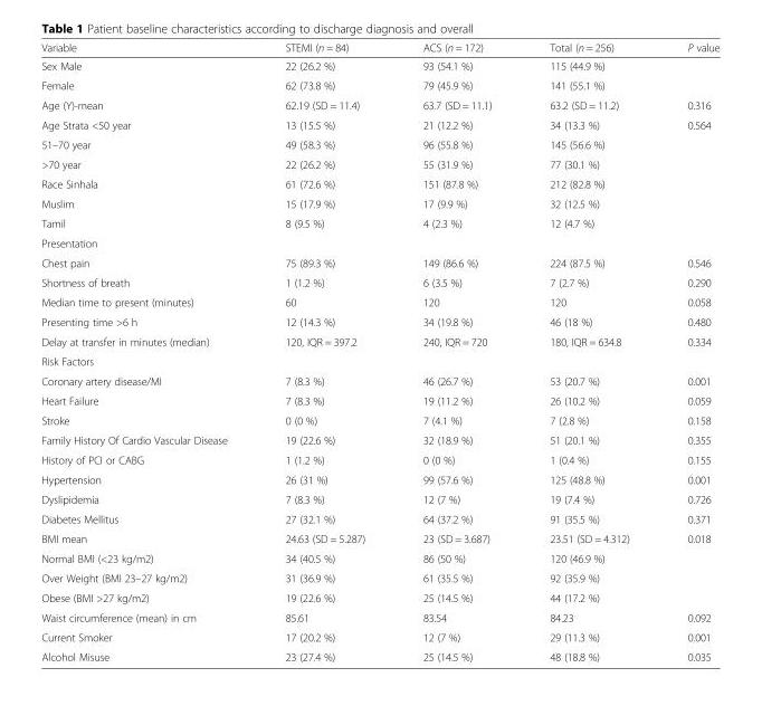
<table><thead><tr><td>Variable</td><td>STEMI (n = 84)</td><td>ACS (n = 172)</td><td>Total (n = 256)</td><td>P value</td></tr></thead><tbody><tr><td>Sex Male</td><td>22 (26.2 %)</td><td>93 (54.1 %)</td><td>115 (44.9 %)</td><td rowspan="2"></td></tr><tr><td>Female</td><td>62 (73.8 %)</td><td>79 (45.9 %)</td><td>141 (55.1 %)</td></tr><tr><td>Age (Y)-mean</td><td>62.19 (SD = 11.4)</td><td>63.7 (SD = 11.1)</td><td>63.2 (SD = 11.2)</td><td>0.316</td></tr><tr><td>Age Strata &lt;50 year</td><td>13 (15.5 %)</td><td>21 (12.2 %)</td><td>34 (13.3 %)</td><td rowspan="3">0.564</td></tr><tr><td>51–70 year</td><td>49 (58.3 %)</td><td>96 (55.8 %)</td><td>145 (56.6 %)</td></tr><tr><td>&gt;70 year</td><td>22 (26.2 %)</td><td>55 (31.9 %)</td><td>77 (30.1 %)</td></tr><tr><td>Race Sinhala</td><td>61 (72.6 %)</td><td>151 (87.8 %)</td><td>212 (82.8 %)</td><td rowspan="3"></td></tr><tr><td>Muslim</td><td>15 (17.9 %)</td><td>17 (9.9 %)</td><td>32 (12.5 %)</td></tr><tr><td>Tamil</td><td>8 (9.5 %)</td><td>4 (2.3 %)</td><td>12 (4.7 %)</td></tr><tr><td colspan="5">Presentation</td></tr><tr><td>Chest pain</td><td>75 (89.3 %)</td><td>149 (86.6 %)</td><td>224 (87.5 %)</td><td>0.546</td></tr><tr><td>Shortness of breath</td><td>1 (1.2 %)</td><td>6 (3.5 %)</td><td>7 (2.7 %)</td><td>0.290</td></tr><tr><td>Median time to present (minutes)</td><td>60</td><td>120</td><td>120</td><td>0.058</td></tr><tr><td>Presenting time &gt;6 h</td><td>12 (14.3 %)</td><td>34 (19.8 %)</td><td>46 (18 %)</td><td>0.480</td></tr><tr><td>Delay at transfer in minutes (median)</td><td>120, IQR = 397.2</td><td>240, IQR = 720</td><td>180, IQR = 634.8</td><td>0.334</td></tr><tr><td colspan="5">Risk Factors</td></tr><tr><td>Coronary artery disease/MI</td><td>7 (8.3 %)</td><td>46 (26.7 %)</td><td>53 (20.7 %)</td><td>0.001</td></tr><tr><td>Heart Failure</td><td>7 (8.3 %)</td><td>19 (11.2 %)</td><td>26 (10.2 %)</td><td>0.059</td></tr><tr><td>Stroke</td><td>0 (0 %)</td><td>7 (4.1 %)</td><td>7 (2.8 %)</td><td>0.158</td></tr><tr><td>Family History Of Cardio Vascular Disease</td><td>19 (22.6 %)</td><td>32 (18.9 %)</td><td>51 (20.1 %)</td><td>0.355</td></tr><tr><td>History of PCI or CABG</td><td>1 (1.2 %)</td><td>0 (0 %)</td><td>1 (0.4 %)</td><td>0.155</td></tr><tr><td>Hypertension</td><td>26 (31 %)</td><td>99 (57.6 %)</td><td>125 (48.8 %)</td><td>0.001</td></tr><tr><td>Dyslipidemia</td><td>7 (8.3 %)</td><td>12 (7 %)</td><td>19 (7.4 %)</td><td>0.726</td></tr><tr><td>Diabetes Mellitus</td><td>27 (32.1 %)</td><td>64 (37.2 %)</td><td>91 (35.5 %)</td><td>0.371</td></tr><tr><td>BMI mean</td><td>24.63 (SD = 5.287)</td><td>23 (SD = 3.687)</td><td>23.51 (SD = 4.312)</td><td>0.018</td></tr><tr><td>Normal BMI (&lt;23 kg/m2)</td><td>34 (40.5 %)</td><td>86 (50 %)</td><td>120 (46.9 %)</td><td rowspan="3"></td></tr><tr><td>Over Weight (BMI 23–27 kg/m2)</td><td>31 (36.9 %)</td><td>61 (35.5 %)</td><td>92 (35.9 %)</td></tr><tr><td>Obese (BMI &gt;27 kg/m2)</td><td>19 (22.6 %)</td><td>25 (14.5 %)</td><td>44 (17.2 %)</td></tr><tr><td>Waist circumference (mean) in cm</td><td>85.61</td><td>83.54</td><td>84.23</td><td>0.092</td></tr><tr><td>Current Smoker</td><td>17 (20.2 %)</td><td>12 (7 %)</td><td>29 (11.3 %)</td><td>0.001</td></tr><tr><td>Alcohol Misuse</td><td>23 (27.4 %)</td><td>25 (14.5 %)</td><td>48 (18.8 %)</td><td>0.035</td></tr></tbody></table>